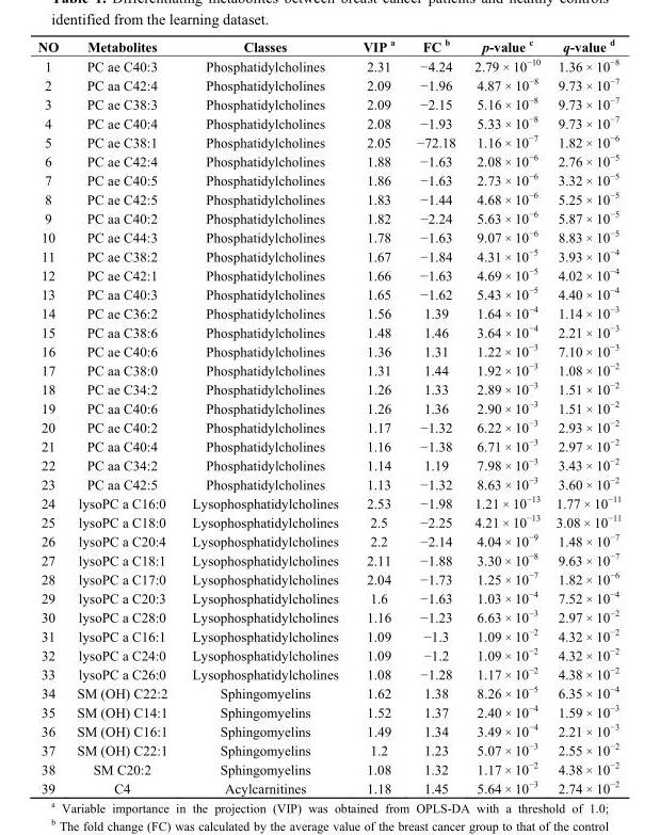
<table><thead><tr><td>NO</td><td>Metabolites</td><td>Classes</td><td>VIP a</td><td>FC b</td><td>p-value c</td><td>q-value d</td></tr></thead><tbody><tr><td>1</td><td>PC ae C40:3</td><td>Phosphatidylcholines</td><td>2.31</td><td>−4.24</td><td>2.79 × 10<sup>−10</sup></td><td>1.36 × 10<sup>−8</sup></td></tr><tr><td>2</td><td>PC aa C42:4</td><td>Phosphatidylcholines</td><td>2.09</td><td>−1.96</td><td>4.87 × 10<sup>−8</sup></td><td>9.73 × 10<sup>−7</sup></td></tr><tr><td>3</td><td>PC ae C38:3</td><td>Phosphatidylcholines</td><td>2.09</td><td>−2.15</td><td>5.16 × 10<sup>−8</sup></td><td>9.73 × 10<sup>−7</sup></td></tr><tr><td>4</td><td>PC ae C40:4</td><td>Phosphatidylcholines</td><td>2.08</td><td>−1.93</td><td>5.33 × 10<sup>−8</sup></td><td>9.73 × 10<sup>−7</sup></td></tr><tr><td>5</td><td>PC ae C38:1</td><td>Phosphatidylcholines</td><td>2.05</td><td>−72.18</td><td>1.16 × 10<sup>−7</sup></td><td>1.82 × 10<sup>−6</sup></td></tr><tr><td>6</td><td>PC ae C42:4</td><td>Phosphatidylcholines</td><td>1.88</td><td>−1.63</td><td>2.08 × 10<sup>−6</sup></td><td>2.76 × 10<sup>−5</sup></td></tr><tr><td>7</td><td>PC ae C40:5</td><td>Phosphatidylcholines</td><td>1.86</td><td>−1.63</td><td>2.73 × 10<sup>−6</sup></td><td>3.32 × 10<sup>−5</sup></td></tr><tr><td>8</td><td>PC ae C42:5</td><td>Phosphatidylcholines</td><td>1.83</td><td>−1.44</td><td>4.68 × 10<sup>−6</sup></td><td>5.25 × 10<sup>−5</sup></td></tr><tr><td>9</td><td>PC aa C40:2</td><td>Phosphatidylcholines</td><td>1.82</td><td>−2.24</td><td>5.63 × 10<sup>−6</sup></td><td>5.87 × 10<sup>−5</sup></td></tr><tr><td>10</td><td>PC ae C44:3</td><td>Phosphatidylcholines</td><td>1.78</td><td>−1.63</td><td>9.07 × 10<sup>−6</sup></td><td>8.83 × 10<sup>−5</sup></td></tr><tr><td>11</td><td>PC ae C38:2</td><td>Phosphatidylcholines</td><td>1.67</td><td>−1.84</td><td>4.31 × 10<sup>−5</sup></td><td>3.93 × 10<sup>−4</sup></td></tr><tr><td>12</td><td>PC ae C42:1</td><td>Phosphatidylcholines</td><td>1.66</td><td>−1.63</td><td>4.69 × 10<sup>−5</sup></td><td>4.02 × 10<sup>−4</sup></td></tr><tr><td>13</td><td>PC aa C40:3</td><td>Phosphatidylcholines</td><td>1.65</td><td>−1.62</td><td>5.43 × 10<sup>−5</sup></td><td>4.40 × 10<sup>−4</sup></td></tr><tr><td>14</td><td>PC ae C36:2</td><td>Phosphatidylcholines</td><td>1.56</td><td>1.39</td><td>1.64 × 10<sup>−4</sup></td><td>1.14 × 10<sup>−3</sup></td></tr><tr><td>15</td><td>PC aa C38:6</td><td>Phosphatidylcholines</td><td>1.48</td><td>1.46</td><td>3.64 × 10<sup>−4</sup></td><td>2.21 × 10<sup>−3</sup></td></tr><tr><td>16</td><td>PC ae C40:6</td><td>Phosphatidylcholines</td><td>1.36</td><td>1.31</td><td>1.22 × 10<sup>−3</sup></td><td>7.10 × 10<sup>−3</sup></td></tr><tr><td>17</td><td>PC aa C38:0</td><td>Phosphatidylcholines</td><td>1.31</td><td>1.44</td><td>1.92 × 10<sup>−3</sup></td><td>1.08 × 10<sup>−2</sup></td></tr><tr><td>18</td><td>PC ae C34:2</td><td>Phosphatidylcholines</td><td>1.26</td><td>1.33</td><td>2.89 × 10<sup>−3</sup></td><td>1.51 × 10<sup>−2</sup></td></tr><tr><td>19</td><td>PC aa C40:6</td><td>Phosphatidylcholines</td><td>1.26</td><td>1.36</td><td>2.90 × 10<sup>−3</sup></td><td>1.51 × 10<sup>−2</sup></td></tr><tr><td>20</td><td>PC ae C40:2</td><td>Phosphatidylcholines</td><td>1.17</td><td>−1.32</td><td>6.22 × 10<sup>−3</sup></td><td>2.93 × 10<sup>−2</sup></td></tr><tr><td>21</td><td>PC aa C40:4</td><td>Phosphatidylcholines</td><td>1.16</td><td>−1.38</td><td>6.71 × 10<sup>−3</sup></td><td>2.97 × 10<sup>−2</sup></td></tr><tr><td>22</td><td>PC aa C34:2</td><td>Phosphatidylcholines</td><td>1.14</td><td>1.19</td><td>7.98 × 10<sup>−3</sup></td><td>3.43 × 10<sup>−2</sup></td></tr><tr><td>23</td><td>PC aa C42:5</td><td>Phosphatidylcholines</td><td>1.13</td><td>−1.32</td><td>8.63 × 10<sup>−3</sup></td><td>3.60 × 10<sup>−2</sup></td></tr><tr><td>24</td><td>lysoPC a C16:0</td><td>Lysophosphatidylcholines</td><td>2.53</td><td>−1.98</td><td>1.21 × 10<sup>−13</sup></td><td>1.77 × 10<sup>−11</sup></td></tr><tr><td>25</td><td>lysoPC a C18:0</td><td>Lysophosphatidylcholines</td><td>2.5</td><td>−2.25</td><td>4.21 × 10<sup>−13</sup></td><td>3.08 × 10<sup>−11</sup></td></tr><tr><td>26</td><td>lysoPC a C20:4</td><td>Lysophosphatidylcholines</td><td>2.2</td><td>−2.14</td><td>4.04 × 10<sup>−9</sup></td><td>1.48 × 10<sup>−7</sup></td></tr><tr><td>27</td><td>lysoPC a C18:1</td><td>Lysophosphatidylcholines</td><td>2.11</td><td>−1.88</td><td>3.30 × 10<sup>−8</sup></td><td>9.63 × 10<sup>−7</sup></td></tr><tr><td>28</td><td>lysoPC a C17:0</td><td>Lysophosphatidylcholines</td><td>2.04</td><td>−1.73</td><td>1.25 × 10<sup>−7</sup></td><td>1.82 × 10<sup>−6</sup></td></tr><tr><td>29</td><td>lysoPC a C20:3</td><td>Lysophosphatidylcholines</td><td>1.6</td><td>−1.63</td><td>1.03 × 10<sup>−4</sup></td><td>7.52 × 10<sup>−4</sup></td></tr><tr><td>30</td><td>lysoPC a C28:0</td><td>Lysophosphatidylcholines</td><td>1.16</td><td>−1.23</td><td>6.63 × 10<sup>−3</sup></td><td>2.97 × 10<sup>−2</sup></td></tr><tr><td>31</td><td>lysoPC a C16:1</td><td>Lysophosphatidylcholines</td><td>1.09</td><td>−1.3</td><td>1.09 × 10<sup>−2</sup></td><td>4.32 × 10<sup>−2</sup></td></tr><tr><td>32</td><td>lysoPC a C24:0</td><td>Lysophosphatidylcholines</td><td>1.09</td><td>−1.2</td><td>1.09 × 10<sup>−2</sup></td><td>4.32 × 10<sup>−2</sup></td></tr><tr><td>33</td><td>lysoPC a C26:0</td><td>Lysophosphatidylcholines</td><td>1.08</td><td>−1.28</td><td>1.17 × 10<sup>−2</sup></td><td>4.38 × 10<sup>−2</sup></td></tr><tr><td>34</td><td>SM (OH) C22:2</td><td>Sphingomyelins</td><td>1.62</td><td>1.38</td><td>8.26 × 10<sup>−5</sup></td><td>6.35 × 10<sup>−4</sup></td></tr><tr><td>35</td><td>SM (OH) C14:1</td><td>Sphingomyelins</td><td>1.52</td><td>1.37</td><td>2.40 × 10<sup>−4</sup></td><td>1.59 × 10<sup>−3</sup></td></tr><tr><td>36</td><td>SM (OH) C16:1</td><td>Sphingomyelins</td><td>1.49</td><td>1.34</td><td>3.49 × 10<sup>−4</sup></td><td>2.21 × 10<sup>−3</sup></td></tr><tr><td>37</td><td>SM (OH) C22:1</td><td>Sphingomyelins</td><td>1.2</td><td>1.23</td><td>5.07 × 10<sup>−3</sup></td><td>2.55 × 10<sup>−2</sup></td></tr><tr><td>38</td><td>SM C20:2</td><td>Sphingomyelins</td><td>1.08</td><td>1.32</td><td>1.17 × 10<sup>−2</sup></td><td>4.38 × 10<sup>−2</sup></td></tr><tr><td>39</td><td>C4</td><td>Acylcarnitines</td><td>1.18</td><td>1.45</td><td>5.64 × 10<sup>−3</sup></td><td>2.74 × 10<sup>−2</sup></td></tr></tbody></table>